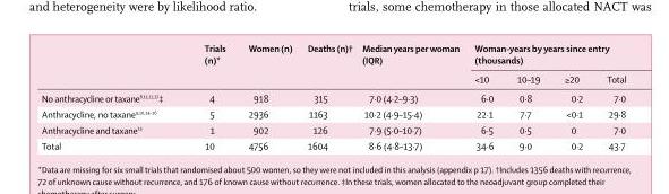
<table><thead><tr><td rowspan="2"></td><td rowspan="2">Trials (n)*</td><td rowspan="2">Women (n)</td><td rowspan="2">Deaths (n)†</td><td rowspan="2">Median years per woman (IQR)</td><td colspan="4">Woman-years by years since entry (thousands)</td></tr><tr><td>&lt;10</td><td>10–19</td><td>≥20</td><td>Total</td></tr></thead><tbody><tr><td>No anthracycline or taxane<sup>8</sup>,<sup>11</sup>,<sup>12</sup>,<sup>17</sup>‡</td><td>4</td><td>918</td><td>315</td><td>7·0 (4·2–9·3)</td><td>6·0</td><td>0·8</td><td>0·2</td><td>7·0</td></tr><tr><td>Anthracycline, no taxane9,10,14–16</td><td>5</td><td>2936</td><td>1163</td><td>10·2 (4·9–15·4)</td><td>22·1</td><td>7·7</td><td>&lt;0·1</td><td>29·8</td></tr><tr><td>Anthracycline and taxane<sup>13</sup></td><td>1</td><td>902</td><td>126</td><td>7·9 (5·0–10·7)</td><td>6·5</td><td>0·5</td><td>0</td><td>7·0</td></tr><tr><td>Total</td><td>10</td><td>4756</td><td>1604</td><td>8·6 (4·8–13·7)</td><td>34·6</td><td>9·0</td><td>0·2</td><td>43·7</td></tr></tbody></table>